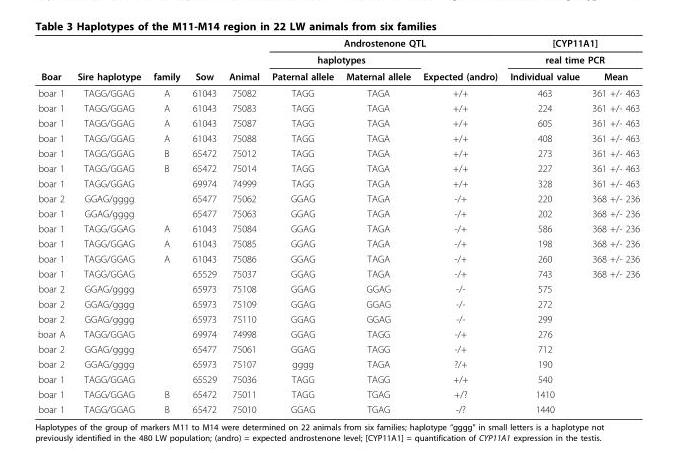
<table><thead><tr><td rowspan="3">Boar</td><td rowspan="3">Sire haplotype</td><td rowspan="3">family</td><td rowspan="3">Sow</td><td rowspan="3">Animal</td><td colspan="3">Androstenone QTL</td><td rowspan="2" colspan="2">[CYP11A1] real time PCR</td></tr><tr><td colspan="2">haplotypes</td><td rowspan="2">Expected (andro)</td></tr><tr><td>Paternal allele</td><td>Maternal allele</td><td>Individual value</td><td>Mean</td></tr></thead><tbody><tr><td>boar 1</td><td>TAGG/GGAG</td><td>A</td><td>61043</td><td>75082</td><td>TAGG</td><td>TAGA</td><td>+/+</td><td>463</td><td>361 +/- 463</td></tr><tr><td>boar 1</td><td>TAGG/GGAG</td><td>A</td><td>61043</td><td>75083</td><td>TAGG</td><td>TAGA</td><td>+/+</td><td>224</td><td>361 +/- 463</td></tr><tr><td>boar 1</td><td>TAGG/GGAG</td><td>A</td><td>61043</td><td>75087</td><td>TAGG</td><td>TAGA</td><td>+/+</td><td>605</td><td>361 +/- 463</td></tr><tr><td>boar 1</td><td>TAGG/GGAG</td><td>A</td><td>61043</td><td>75088</td><td>TAGG</td><td>TAGA</td><td>+/+</td><td>408</td><td>361 +/- 463</td></tr><tr><td>boar 1</td><td>TAGG/GGAG</td><td>B</td><td>65472</td><td>75012</td><td>TAGG</td><td>TAGA</td><td>+/+</td><td>273</td><td>361 +/- 463</td></tr><tr><td>boar 1</td><td>TAGG/GGAG</td><td>B</td><td>65472</td><td>75014</td><td>TAGG</td><td>TAGA</td><td>+/+</td><td>227</td><td>361 +/- 463</td></tr><tr><td>boar 1</td><td>TAGG/GGAG</td><td></td><td>69974</td><td>74999</td><td>TAGG</td><td>TAGA</td><td>+/+</td><td>328</td><td>361 +/- 463</td></tr><tr><td>boar 2</td><td>GGAG/gggg</td><td></td><td>65477</td><td>75062</td><td>GGAG</td><td>TAGA</td><td>-/+</td><td>220</td><td>368 +/- 236</td></tr><tr><td>boar 1</td><td>GGAG/gggg</td><td></td><td>65477</td><td>75063</td><td>GGAG</td><td>TAGA</td><td>-/+</td><td>202</td><td>368 +/- 236</td></tr><tr><td>boar 1</td><td>TAGG/GGAG</td><td>A</td><td>61043</td><td>75084</td><td>GGAG</td><td>TAGA</td><td>-/+</td><td>586</td><td>368 +/- 236</td></tr><tr><td>boar 1</td><td>TAGG/GGAG</td><td>A</td><td>61043</td><td>75085</td><td>GGAG</td><td>TAGA</td><td>-/+</td><td>198</td><td>368 +/- 236</td></tr><tr><td>boar 1</td><td>TAGG/GGAG</td><td>A</td><td>61043</td><td>75086</td><td>GGAG</td><td>TAGA</td><td>-/+</td><td>260</td><td>368 +/- 236</td></tr><tr><td>boar 1</td><td>TAGG/GGAG</td><td></td><td>65529</td><td>75037</td><td>GGAG</td><td>TAGA</td><td>-/+</td><td>743</td><td>368 +/- 236</td></tr><tr><td>boar 2</td><td>GGAG/gggg</td><td></td><td>65973</td><td>75108</td><td>GGAG</td><td>GGAG</td><td>-/-</td><td>575</td><td></td></tr><tr><td>boar 2</td><td>GGAG/gggg</td><td></td><td>65973</td><td>75109</td><td>GGAG</td><td>GGAG</td><td>-/-</td><td>272</td><td></td></tr><tr><td>boar 2</td><td>GGAG/gggg</td><td></td><td>65973</td><td>75110</td><td>GGAG</td><td>GGAG</td><td>-/-</td><td>299</td><td></td></tr><tr><td>boar A</td><td>TAGG/GGAG</td><td></td><td>69974</td><td>74998</td><td>GGAG</td><td>TAGG</td><td>-/+</td><td>276</td><td></td></tr><tr><td>boar 2</td><td>GGAG/gggg</td><td></td><td>65477</td><td>75061</td><td>GGAG</td><td>TAGG</td><td>-/+</td><td>712</td><td></td></tr><tr><td>boar 2</td><td>GGAG/gggg</td><td></td><td>65973</td><td>75107</td><td>gggg</td><td>TAGA</td><td>?/+</td><td>190</td><td></td></tr><tr><td>boar 1</td><td>TAGG/GGAG</td><td></td><td>65529</td><td>75036</td><td>TAGG</td><td>TAGG</td><td>+/+</td><td>540</td><td></td></tr><tr><td>boar 1</td><td>TAGG/GGAG</td><td>B</td><td>65472</td><td>75011</td><td>TAGG</td><td>TGAG</td><td>+/?</td><td>1410</td><td></td></tr><tr><td>boar 1</td><td>TAGG/GGAG</td><td>B</td><td>65472</td><td>75010</td><td>GGAG</td><td>TGAG</td><td>-/?</td><td>1440</td><td></td></tr></tbody></table>